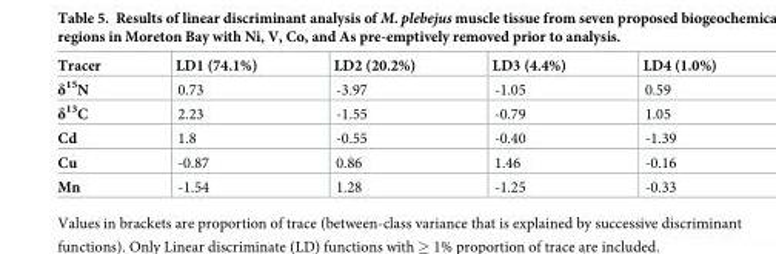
<table><thead><tr><td>Tracer</td><td>LD1 (74.1%)</td><td>LD2 (20.2%)</td><td>LD3 (4.4%)</td><td>LD4 (1.0%)</td></tr></thead><tbody><tr><td>δ<sup>15</sup>N</td><td>0.73</td><td>-3.97</td><td>-1.05</td><td>0.59</td></tr><tr><td>δ<sup>13</sup>C</td><td>2.23</td><td>-1.55</td><td>-0.79</td><td>1.05</td></tr><tr><td>Cd</td><td>1.8</td><td>-0.55</td><td>-0.40</td><td>-1.39</td></tr><tr><td>Cu</td><td>-0.87</td><td>0.86</td><td>1.46</td><td>-0.16</td></tr><tr><td>Mn</td><td>-1.54</td><td>1.28</td><td>-1.25</td><td>-0.33</td></tr></tbody></table>